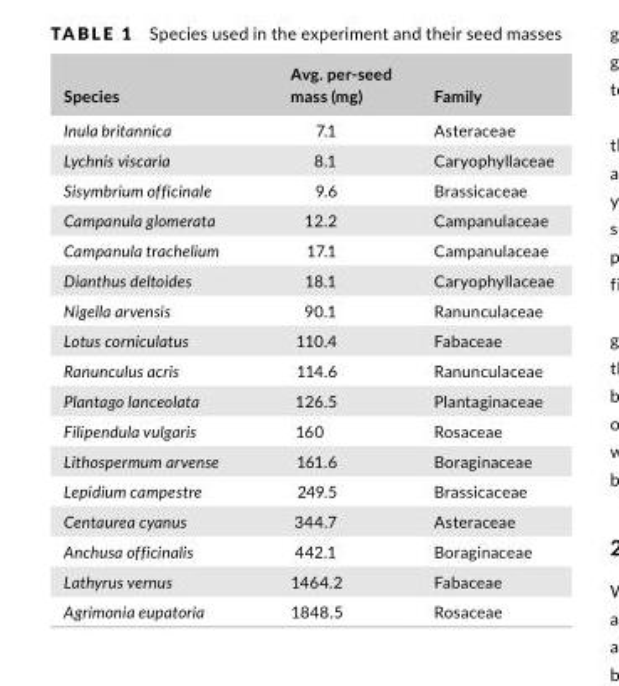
<table><thead><tr><td>Species</td><td>Avg. per- seed mass (mg)</td><td>Family</td></tr></thead><tbody><tr><td>Inula britannica</td><td>7.1</td><td>Asteraceae</td></tr><tr><td>Lychnis viscaria</td><td>8.1</td><td>Caryophyllaceae</td></tr><tr><td>Sisymbrium officinale</td><td>9.6</td><td>Brassicaceae</td></tr><tr><td>Campanula glomerata</td><td>12.2</td><td>Campanulaceae</td></tr><tr><td>Campanula trachelium</td><td>17.1</td><td>Campanulaceae</td></tr><tr><td>Dianthus deltoides</td><td>18.1</td><td>Caryophyllaceae</td></tr><tr><td>Nigella arvensis</td><td>90.1</td><td>Ranunculaceae</td></tr><tr><td>Lotus corniculatus</td><td>110.4</td><td>Fabaceae</td></tr><tr><td>Ranunculus acris</td><td>114.6</td><td>Ranunculaceae</td></tr><tr><td>Plantago lanceolata</td><td>126.5</td><td>Plantaginaceae</td></tr><tr><td>Filipendula vulgaris</td><td>160</td><td>Rosaceae</td></tr><tr><td>Lithospermum arvense</td><td>161.6</td><td>Boraginaceae</td></tr><tr><td>Lepidium campestre</td><td>249.5</td><td>Brassicaceae</td></tr><tr><td>Centaurea cyanus</td><td>344.7</td><td>Asteraceae</td></tr><tr><td>Anchusa officinalis</td><td>442.1</td><td>Boraginaceae</td></tr><tr><td>Lathyrus vernus</td><td>1464.2</td><td>Fabaceae</td></tr><tr><td>Agrimonia eupatoria</td><td>1848.5</td><td>Rosaceae</td></tr></tbody></table>